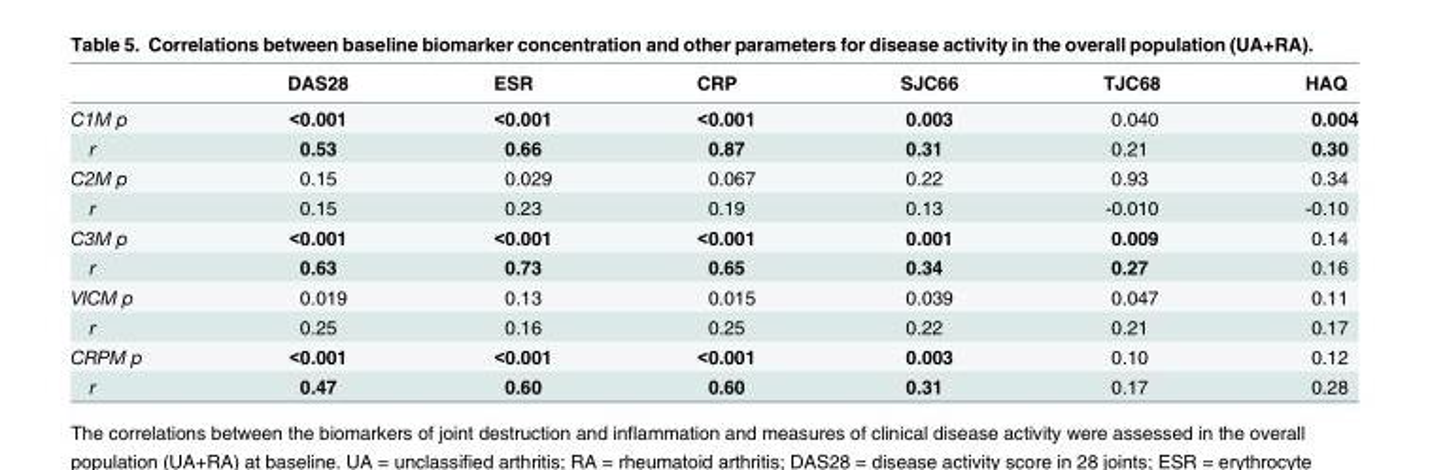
<table><thead><tr><td></td><td>DAS28</td><td>ESR</td><td>CRP</td><td>SJC66</td><td>TJC68</td><td>HAQ</td></tr></thead><tbody><tr><td>C1M p</td><td>&lt;0.001</td><td>&lt;0.001</td><td>&lt;0.001</td><td>0.003</td><td>0.040</td><td>0.004</td></tr><tr><td>r</td><td>0.53</td><td>0.66</td><td>0.87</td><td>0.31</td><td>0.21</td><td>0.30</td></tr><tr><td>C2M p</td><td>0.15</td><td>0.029</td><td>0.067</td><td>0.22</td><td>0.93</td><td>0.34</td></tr><tr><td>r</td><td>0.15</td><td>0.23</td><td>0.19</td><td>0.13</td><td>-0.010</td><td>-0.10</td></tr><tr><td>C3M p</td><td>&lt;0.001</td><td>&lt;0.001</td><td>&lt;0.001</td><td>0.001</td><td>0.009</td><td>0.14</td></tr><tr><td>r</td><td>0.63</td><td>0.73</td><td>0.65</td><td>0.34</td><td>0.27</td><td>0.16</td></tr><tr><td>VICM p</td><td>0.019</td><td>0.13</td><td>0.015</td><td>0.039</td><td>0.047</td><td>0.11</td></tr><tr><td>r</td><td>0.25</td><td>0.16</td><td>0.25</td><td>0.22</td><td>0.21</td><td>0.17</td></tr><tr><td>CRPM p</td><td>&lt;0.001</td><td>&lt;0.001</td><td>&lt;0.001</td><td>0.003</td><td>0.10</td><td>0.12</td></tr><tr><td>r</td><td>0.47</td><td>0.60</td><td>0.60</td><td>0.31</td><td>0.17</td><td>0.28</td></tr></tbody></table>